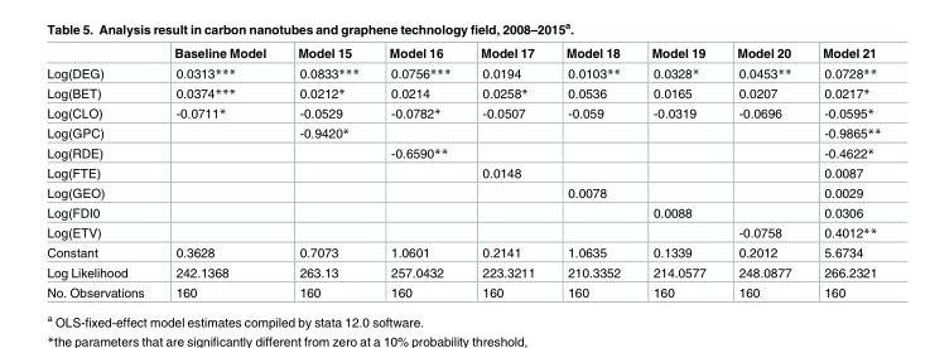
<table><thead><tr><td></td><td>Baseline Model</td><td>Model 15</td><td>Model 16</td><td>Model 17</td><td>Model 18</td><td>Model 19</td><td>Model 20</td><td>Model 21</td></tr></thead><tbody><tr><td>Log(DEG)</td><td>0.0313***</td><td>0.0833***</td><td>0.0756***</td><td>0.0194</td><td>0.0103**</td><td>0.0328*</td><td>0.0453**</td><td>0.0728**</td></tr><tr><td>Log(BET)</td><td>0.0374***</td><td>0.0212*</td><td>0.0214</td><td>0.0258*</td><td>0.0536</td><td>0.0165</td><td>0.0207</td><td>0.0217*</td></tr><tr><td>Log(CLO)</td><td>-0.0711*</td><td>-0.0529</td><td>-0.0782*</td><td>-0.0507</td><td>-0.059</td><td>-0.0319</td><td>-0.0696</td><td>-0.0595*</td></tr><tr><td>Log(GPC)</td><td></td><td>-0.9420*</td><td></td><td></td><td></td><td></td><td></td><td>-0.9865**</td></tr><tr><td>Log(RDE)</td><td></td><td></td><td>-0.6590**</td><td></td><td></td><td></td><td></td><td>-0.4622*</td></tr><tr><td>Log(FTE)</td><td></td><td></td><td></td><td>0.0148</td><td></td><td></td><td></td><td>0.0087</td></tr><tr><td>Log(GEO)</td><td></td><td></td><td></td><td></td><td>0.0078</td><td></td><td></td><td>0.0029</td></tr><tr><td>Log(FDI0</td><td></td><td></td><td></td><td></td><td></td><td>0.0088</td><td></td><td>0.0306</td></tr><tr><td>Log(ETV)</td><td></td><td></td><td></td><td></td><td></td><td></td><td>-0.0758</td><td>0.4012**</td></tr><tr><td>Constant</td><td>0.3628</td><td>0.7073</td><td>1.0601</td><td>0.2141</td><td>1.0635</td><td>0.1339</td><td>0.2012</td><td>5.6734</td></tr><tr><td>Log Likelihood</td><td>242.1368</td><td>263.13</td><td>257.0432</td><td>223.3211</td><td>210.3352</td><td>214.0577</td><td>248.0877</td><td>266.2321</td></tr><tr><td>No. Observations</td><td>160</td><td>160</td><td>160</td><td>160</td><td>160</td><td>160</td><td>160</td><td>160</td></tr></tbody></table>